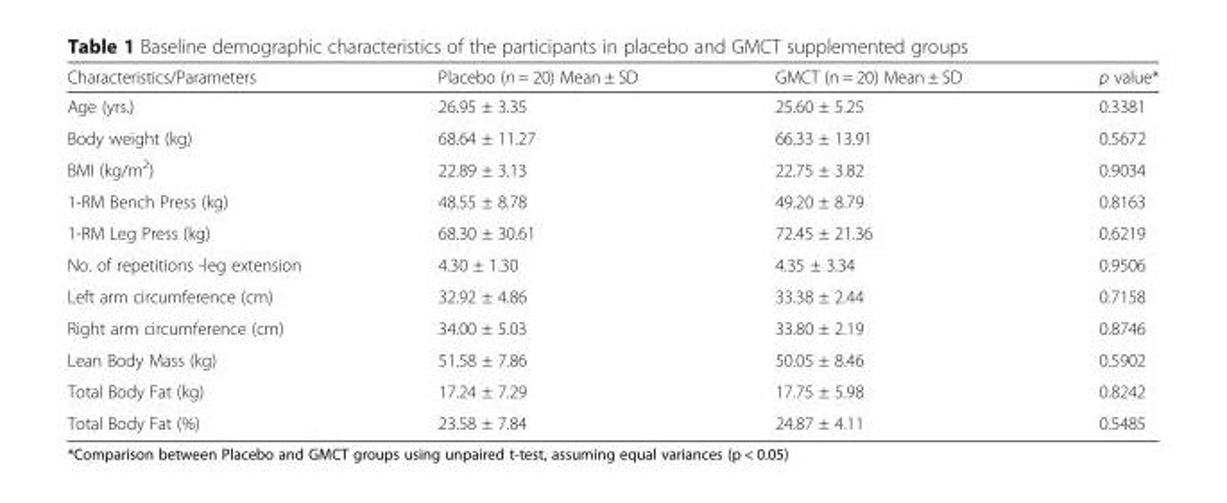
<table><thead><tr><td>Characteristics/Parameters</td><td>Placebo (n = 20) Mean ± SD</td><td>GMCT (n = 20) Mean ± SD</td><td>p value*</td></tr></thead><tbody><tr><td>Age (yrs.)</td><td>26.95 ± 3.35</td><td>25.60 ± 5.25</td><td>0.3381</td></tr><tr><td>Body weight (kg)</td><td>68.64 ± 11.27</td><td>66.33 ± 13.91</td><td>0.5672</td></tr><tr><td>BMI (kg/m<sup>2</sup>)</td><td>22.89 ± 3.13</td><td>22.75 ± 3.82</td><td>0.9034</td></tr><tr><td>1-RM Bench Press (kg)</td><td>48.55 ± 8.78</td><td>49.20 ± 8.79</td><td>0.8163</td></tr><tr><td>1-RM Leg Press (kg)</td><td>68.30 ± 30.61</td><td>72.45 ± 21.36</td><td>0.6219</td></tr><tr><td>No. of repetitions -leg extension</td><td>4.30 ± 1.30</td><td>4.35 ± 3.34</td><td>0.9506</td></tr><tr><td>Left arm circumference (cm)</td><td>32.92 ± 4.86</td><td>33.38 ± 2.44</td><td>0.7158</td></tr><tr><td>Right arm circumference (cm)</td><td>34.00 ± 5.03</td><td>33.80 ± 2.19</td><td>0.8746</td></tr><tr><td>Lean Body Mass (kg)</td><td>51.58 ± 7.86</td><td>50.05 ± 8.46</td><td>0.5902</td></tr><tr><td>Total Body Fat (kg)</td><td>17.24 ± 7.29</td><td>17.75 ± 5.98</td><td>0.8242</td></tr><tr><td>Total Body Fat (%)</td><td>23.58 ± 7.84</td><td>24.87 ± 4.11</td><td>0.5485</td></tr></tbody></table>